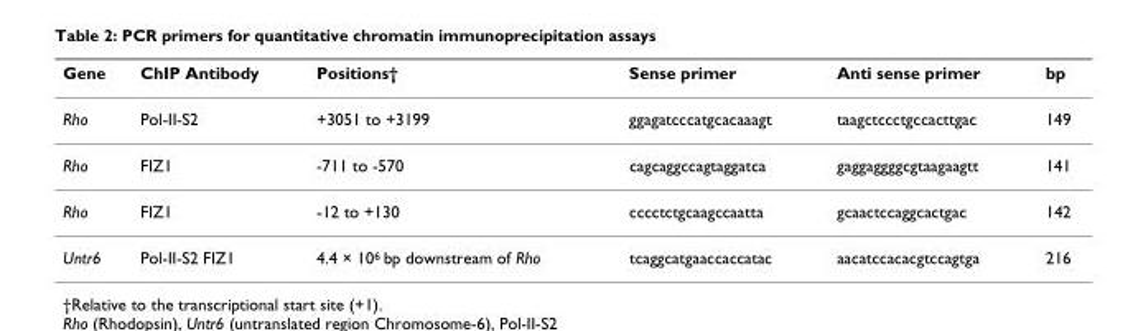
<table><thead><tr><td>Gene</td><td>ChIP Antibody</td><td>Positions†</td><td>Sense primer</td><td>Anti sense primer</td><td>bp</td></tr></thead><tbody><tr><td>Rho</td><td>Pol-II-S2</td><td>+3051 to +3199</td><td>ggagatcccatgcacaaagt</td><td>taagctccctgccacttgac</td><td>149</td></tr><tr><td>Rho</td><td>FIZ1</td><td>-711 to -570</td><td>cagcaggccagtaggatca</td><td>gaggaggggcgtaagaagtt</td><td>141</td></tr><tr><td>Rho</td><td>FIZ1</td><td>-12 to +130</td><td>cccctctgcaagccaatta</td><td>gcaactccaggcactgac</td><td>142</td></tr><tr><td>Untr6</td><td>Pol-II-S2 FIZ1</td><td>4.4 × 10<sup>6</sup> bp downstream of Rho</td><td>tcaggcatgaaccaccatac</td><td>aacatccacacgtccagtga</td><td>216</td></tr></tbody></table>